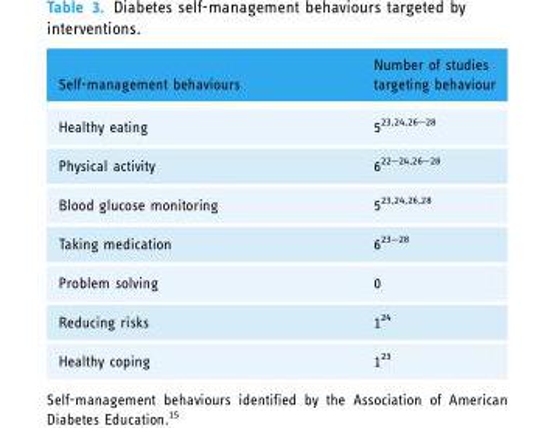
<table><thead><tr><td>Self-management behaviours</td><td>Number of studies targeting behaviour</td></tr></thead><tbody><tr><td>Healthy eating</td><td>5<sup>23,24,26–28</sup></td></tr><tr><td>Physical activity</td><td>6<sup>22–24,26–28</sup></td></tr><tr><td>Blood glucose monitoring</td><td>5<sup>23,24,26,28</sup></td></tr><tr><td>Taking medication</td><td>6<sup>23–28</sup></td></tr><tr><td>Problem solving</td><td>0</td></tr><tr><td>Reducing risks</td><td>1<sup>24</sup></td></tr><tr><td>Healthy coping</td><td>1<sup>23</sup></td></tr></tbody></table>